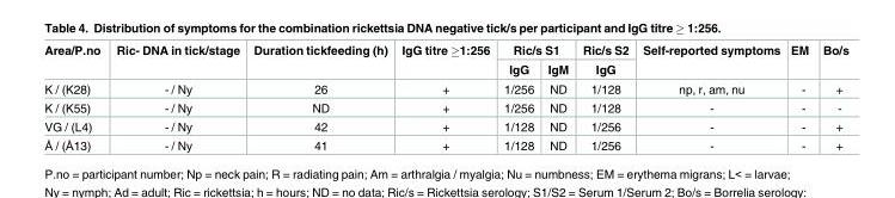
<table><thead><tr><td rowspan="2">Area/P.no</td><td rowspan="2">Ric- DNA in tick/stage</td><td rowspan="2">Duration tickfeeding (h)</td><td rowspan="2">IgG titre ≥1:256</td><td colspan="2">Ric/s S1</td><td rowspan="2">Ric/s S2 IgG</td><td rowspan="2">Self-reported symptoms</td><td rowspan="2">EM</td><td rowspan="2">Bo/s</td></tr><tr><td>IgG</td><td>IgM</td></tr></thead><tbody><tr><td>K / (K28)</td><td>- / Ny</td><td>26</td><td>+</td><td>1/256</td><td>ND</td><td>1/128</td><td>np, r, am, nu</td><td>-</td><td>+</td></tr><tr><td>K / (K55)</td><td>- / Ny</td><td>ND</td><td>+</td><td>1/256</td><td>ND</td><td>1/128</td><td>-</td><td>-</td><td>-</td></tr><tr><td>VG / (L4)</td><td>- / Ny</td><td>42</td><td>+</td><td>1/128</td><td>ND</td><td>1/256</td><td>-</td><td>-</td><td>+</td></tr><tr><td>Å / (Å13)</td><td>- / Ny</td><td>41</td><td>+</td><td>1/128</td><td>ND</td><td>1/256</td><td>-</td><td>-</td><td>+</td></tr></tbody></table>